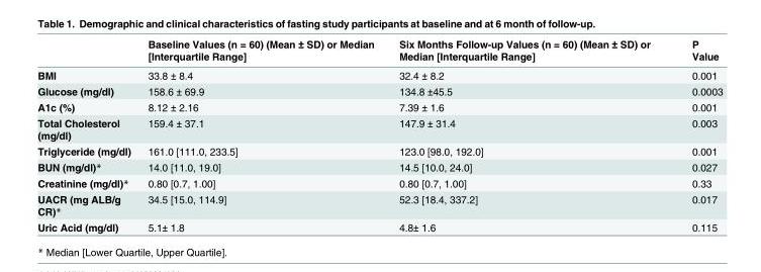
<table><thead><tr><td></td><td>Baseline Values (n = 60) (Mean ± SD) or Median [Interquartile Range]</td><td>Six Months Follow-up Values (n = 60) (Mean ± SD) or Median [Interquartile Range]</td><td>P Value</td></tr></thead><tbody><tr><td>BMI</td><td>33.8 ± 8.4</td><td>32.4 ± 8.2</td><td>0.001</td></tr><tr><td>Glucose (mg/dl)</td><td>158.6 ± 69.9</td><td>134.8 ±45.5</td><td>0.0003</td></tr><tr><td>A1c (%)</td><td>8.12 ± 2.16</td><td>7.39 ± 1.6</td><td>0.001</td></tr><tr><td>Total Cholesterol (mg/dl)</td><td>159.4 ± 37.1</td><td>147.9 ± 31.4</td><td>0.003</td></tr><tr><td>Triglyceride (mg/dl)</td><td>161.0 [111.0, 233.5]</td><td>123.0 [98.0, 192.0]</td><td>0.001</td></tr><tr><td>BUN (mg/dl)*</td><td>14.0 [11.0, 19.0]</td><td>14.5 [10.0, 24.0]</td><td>0.027</td></tr><tr><td>Creatinine (mg/dl)*</td><td>0.80 [0.7, 1.00]</td><td>0.80 [0.7, 1.00]</td><td>0.33</td></tr><tr><td>UACR (mg ALB/g CR)*</td><td>34.5 [15.0, 114.9]</td><td>52.3 [18.4, 337.2]</td><td>0.017</td></tr><tr><td>Uric Acid (mg/dl)</td><td>5.1± 1.8</td><td>4.8± 1.6</td><td>0.115</td></tr></tbody></table>